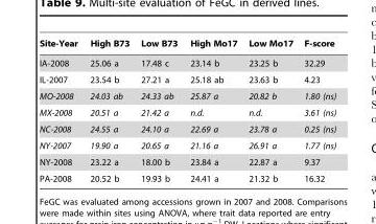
<table><thead><tr><td>Site-Year</td><td>High B73</td><td>Low B73</td><td>High Mo17</td><td>Low Mo17</td><td>F-score</td></tr></thead><tbody><tr><td>IA-2008</td><td>25.06 a</td><td>17.48 c</td><td>23.14 b</td><td>23.25 b</td><td>32.29</td></tr><tr><td>IL-2007</td><td>23.54 b</td><td>27.21 a</td><td>25.18 ab</td><td>23.63 b</td><td>4.23</td></tr><tr><td>MO-2008</td><td>24.03 ab</td><td>24.33 ab</td><td>25.87 a</td><td>20.82 b</td><td>1.80 (ns)</td></tr><tr><td>MX-2008</td><td>20.51 a</td><td>21.42 a</td><td>n.d.</td><td>n.d.</td><td>3.61 (ns)</td></tr><tr><td>NC-2008</td><td>24.55 a</td><td>24.10 a</td><td>22.69 a</td><td>23.78 a</td><td>0.25 (ns)</td></tr><tr><td>NY-2007</td><td>19.90 a</td><td>20.65 a</td><td>21.16 a</td><td>26.91 a</td><td>1.77 (ns)</td></tr><tr><td>NY-2008</td><td>23.22 a</td><td>18.00 b</td><td>23.84 a</td><td>22.87 a</td><td>9.37</td></tr><tr><td>PA-2008</td><td>20.52 b</td><td>19.93 b</td><td>24.41 a</td><td>21.32 b</td><td>16.32</td></tr></tbody></table>